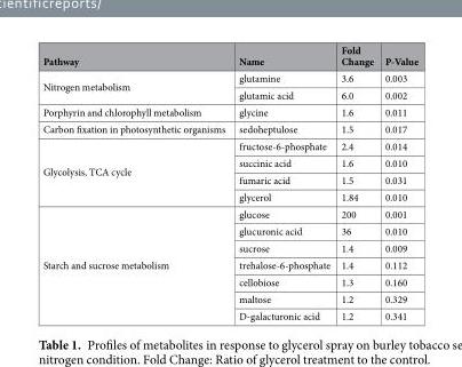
<table><thead><tr><td>Pathway</td><td>Name</td><td>Fold Change</td><td>P-Value</td></tr></thead><tbody><tr><td rowspan="2">Nitrogen metabolism</td><td>glutamine</td><td>3.6</td><td>0.003</td></tr><tr><td>glutamic acid</td><td>6.0</td><td>0.002</td></tr><tr><td>Porphyrin and chlorophyll metabolism</td><td>glycine</td><td>1.6</td><td>0.011</td></tr><tr><td>Carbon fixation in photosynthetic organisms</td><td>sedoheptulose</td><td>1.5</td><td>0.017</td></tr><tr><td rowspan="4">Glycolysis, TCA cycle</td><td>fructose-6-phosphate</td><td>2.4</td><td>0.014</td></tr><tr><td>succinic acid</td><td>1.6</td><td>0.010</td></tr><tr><td>fumaric acid</td><td>1.5</td><td>0.031</td></tr><tr><td>glycerol</td><td>1.84</td><td>0.010</td></tr><tr><td rowspan="7">Starch and sucrose metabolism</td><td>glucose</td><td>200</td><td>0.001</td></tr><tr><td>glucuronic acid</td><td>36</td><td>0.010</td></tr><tr><td>sucrose</td><td>1.4</td><td>0.009</td></tr><tr><td>trehalose-6-phosphate</td><td>1.4</td><td>0.112</td></tr><tr><td>cellobiose</td><td>1.3</td><td>0.160</td></tr><tr><td>maltose</td><td>1.2</td><td>0.329</td></tr><tr><td>D-galacturonic acid</td><td>1.2</td><td>0.341</td></tr></tbody></table>